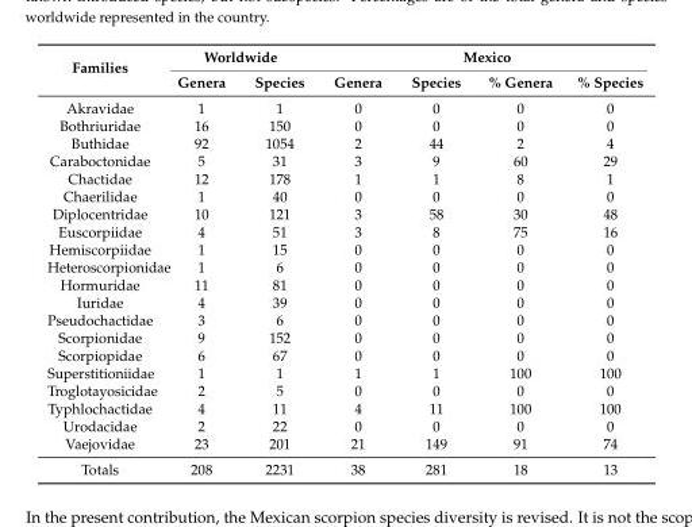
<table><thead><tr><td rowspan="2">Families</td><td colspan="2">Worldwide</td><td colspan="4">Mexico</td></tr><tr><td>Genera</td><td>Species</td><td>Genera</td><td>Species</td><td>% Genera</td><td>% Species</td></tr></thead><tbody><tr><td>Akravidae</td><td>1</td><td>1</td><td>0</td><td>0</td><td>0</td><td>0</td></tr><tr><td>Bothriuridae</td><td>16</td><td>150</td><td>0</td><td>0</td><td>0</td><td>0</td></tr><tr><td>Buthidae</td><td>92</td><td>1054</td><td>2</td><td>44</td><td>2</td><td>4</td></tr><tr><td>Caraboctonidae</td><td>5</td><td>31</td><td>3</td><td>9</td><td>60</td><td>29</td></tr><tr><td>Chactidae</td><td>12</td><td>178</td><td>1</td><td>1</td><td>8</td><td>1</td></tr><tr><td>Chaerilidae</td><td>1</td><td>40</td><td>0</td><td>0</td><td>0</td><td>0</td></tr><tr><td>Diplocentridae</td><td>10</td><td>121</td><td>3</td><td>58</td><td>30</td><td>48</td></tr><tr><td>Euscorpiidae</td><td>4</td><td>51</td><td>3</td><td>8</td><td>75</td><td>16</td></tr><tr><td>Hemiscorpiidae</td><td>1</td><td>15</td><td>0</td><td>0</td><td>0</td><td>0</td></tr><tr><td>Heteroscorpionidae</td><td>1</td><td>6</td><td>0</td><td>0</td><td>0</td><td>0</td></tr><tr><td>Hormuridae</td><td>11</td><td>81</td><td>0</td><td>0</td><td>0</td><td>0</td></tr><tr><td>Iuridae</td><td>4</td><td>39</td><td>0</td><td>0</td><td>0</td><td>0</td></tr><tr><td>Pseudochactidae</td><td>3</td><td>6</td><td>0</td><td>0</td><td>0</td><td>0</td></tr><tr><td>Scorpionidae</td><td>9</td><td>152</td><td>0</td><td>0</td><td>0</td><td>0</td></tr><tr><td>Scorpiopidae</td><td>6</td><td>67</td><td>0</td><td>0</td><td>0</td><td>0</td></tr><tr><td>Superstitioniidae</td><td>1</td><td>1</td><td>1</td><td>1</td><td>100</td><td>100</td></tr><tr><td>Troglotayosicidae</td><td>2</td><td>5</td><td>0</td><td>0</td><td>0</td><td>0</td></tr><tr><td>Typhlochactidae</td><td>4</td><td>11</td><td>4</td><td>11</td><td>100</td><td>100</td></tr><tr><td>Urodacidae</td><td>2</td><td>22</td><td>0</td><td>0</td><td>0</td><td>0</td></tr><tr><td>Vaejovidae</td><td>23</td><td>201</td><td>21</td><td>149</td><td>91</td><td>74</td></tr><tr><td>Totals</td><td>208</td><td>2231</td><td>38</td><td>281</td><td>18</td><td>13</td></tr></tbody></table>